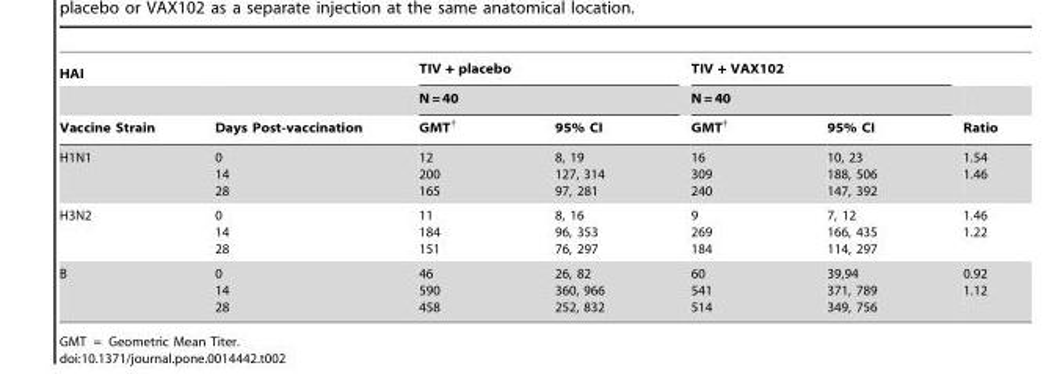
<table><thead><tr><td rowspan="3">HAI Vaccine Strain</td><td rowspan="3">Days Post-vaccination</td><td rowspan="2" colspan="2">TIV + placebo N = 40</td><td rowspan="2" colspan="2">TIV + VAX102 N = 40</td><td rowspan="3">Ratio</td></tr><tr></tr><tr><td>GMT<sup>†</sup></td><td>95% CI</td><td>GMT<sup>†</sup></td><td>95% CI</td></tr></thead><tbody><tr><td>H1N1</td><td>0 14 28</td><td>12 200 165</td><td>8, 19 127, 314 97, 281</td><td>16 309 240</td><td>10, 23 188, 506 147, 392</td><td>1.54 1.46</td></tr><tr><td>H3N2</td><td>0 14 28</td><td>11 184 151</td><td>8, 16 96, 353 76, 297</td><td>9 269 184</td><td>7, 12 166, 435 114, 297</td><td>1.46 1.22</td></tr><tr><td>B</td><td>0 14 28</td><td>46 590 458</td><td>26, 82 360, 966 252, 832</td><td>60 541 514</td><td>39,94 371, 789 349, 756</td><td>0.92 1.12</td></tr></tbody></table>